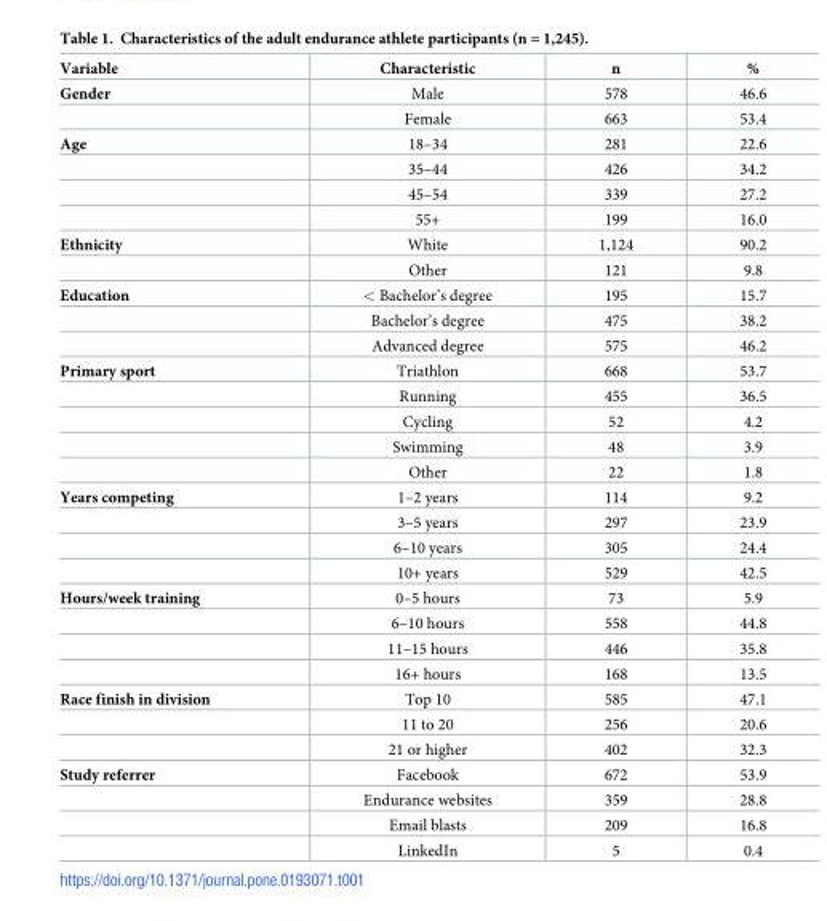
<table><thead><tr><td>Variable</td><td>Characteristic</td><td>n</td><td>%</td></tr></thead><tbody><tr><td rowspan="2">Gender</td><td>Male</td><td>578</td><td>46.6</td></tr><tr><td>Female</td><td>663</td><td>53.4</td></tr><tr><td rowspan="4">Age</td><td>18–34</td><td>281</td><td>22.6</td></tr><tr><td>35–44</td><td>426</td><td>34.2</td></tr><tr><td>45–54</td><td>339</td><td>27.2</td></tr><tr><td>55+</td><td>199</td><td>16.0</td></tr><tr><td rowspan="2">Ethnicity</td><td>White</td><td>1,124</td><td>90.2</td></tr><tr><td>Other</td><td>121</td><td>9.8</td></tr><tr><td rowspan="3">Education</td><td>&lt; Bachelor’s degree</td><td>195</td><td>15.7</td></tr><tr><td>Bachelor’s degree</td><td>475</td><td>38.2</td></tr><tr><td>Advanced degree</td><td>575</td><td>46.2</td></tr><tr><td rowspan="5">Primary sport</td><td>Triathlon</td><td>668</td><td>53.7</td></tr><tr><td>Running</td><td>455</td><td>36.5</td></tr><tr><td>Cycling</td><td>52</td><td>4.2</td></tr><tr><td>Swimming</td><td>48</td><td>3.9</td></tr><tr><td>Other</td><td>22</td><td>1.8</td></tr><tr><td rowspan="4">Years competing</td><td>1–2 years</td><td>114</td><td>9.2</td></tr><tr><td>3–5 years</td><td>297</td><td>23.9</td></tr><tr><td>6–10 years</td><td>305</td><td>24.4</td></tr><tr><td>10+ years</td><td>529</td><td>42.5</td></tr><tr><td rowspan="4">Hours/week training</td><td>0–5 hours</td><td>73</td><td>5.9</td></tr><tr><td>6–10 hours</td><td>558</td><td>44.8</td></tr><tr><td>11–15 hours</td><td>446</td><td>35.8</td></tr><tr><td>16+ hours</td><td>168</td><td>13.5</td></tr><tr><td rowspan="3">Race finish in division</td><td>Top 10</td><td>585</td><td>47.1</td></tr><tr><td>11 to 20</td><td>256</td><td>20.6</td></tr><tr><td>21 or higher</td><td>402</td><td>32.3</td></tr><tr><td rowspan="4">Study referrer</td><td>Facebook</td><td>672</td><td>53.9</td></tr><tr><td>Endurance websites</td><td>359</td><td>28.8</td></tr><tr><td>Email blasts</td><td>209</td><td>16.8</td></tr><tr><td>LinkedIn</td><td>5</td><td>0.4</td></tr></tbody></table>